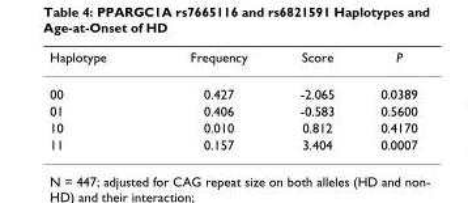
<table><thead><tr><td>Haplotype</td><td>Frequency</td><td>Score</td><td>P</td></tr></thead><tbody><tr><td>00</td><td>0.427</td><td>-2.065</td><td>0.0389</td></tr><tr><td>01</td><td>0.406</td><td>-0.583</td><td>0.5600</td></tr><tr><td>10</td><td>0.010</td><td>0.812</td><td>0.4170</td></tr><tr><td>11</td><td>0.157</td><td>3.404</td><td>0.0007</td></tr></tbody></table>